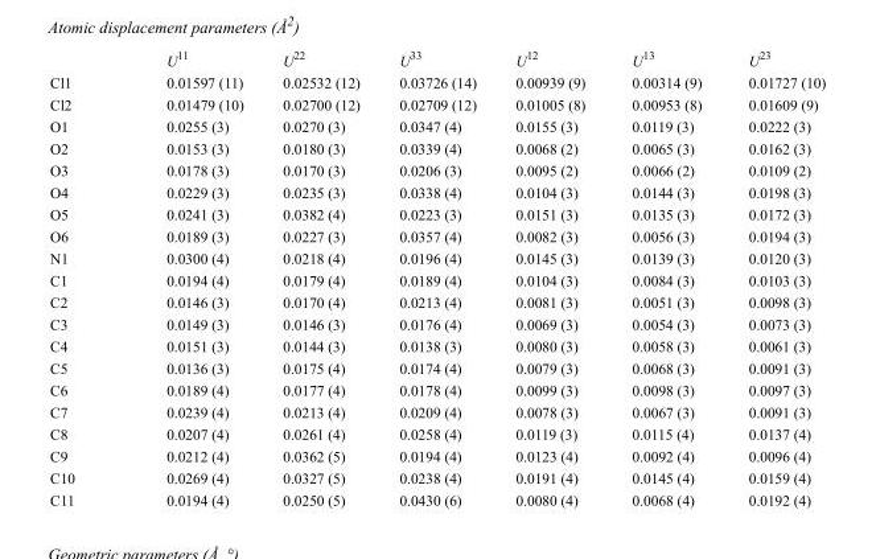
<table><thead><tr><td></td><td>U<sup>11</sup></td><td>U<sup>22</sup></td><td>U<sup>33</sup></td><td>U<sup>12</sup></td><td>U<sup>13</sup></td><td>U<sup>23</sup></td></tr></thead><tbody><tr><td>Cl1</td><td>0.01597 (11)</td><td>0.02532 (12)</td><td>0.03726 (14)</td><td>0.00939 (9)</td><td>0.00314 (9)</td><td>0.01727 (10)</td></tr><tr><td>Cl2</td><td>0.01479 (10)</td><td>0.02700 (12)</td><td>0.02709 (12)</td><td>0.01005 (8)</td><td>0.00953 (8)</td><td>0.01609 (9)</td></tr><tr><td>O1</td><td>0.0255 (3)</td><td>0.0270 (3)</td><td>0.0347 (4)</td><td>0.0155 (3)</td><td>0.0119 (3)</td><td>0.0222 (3)</td></tr><tr><td>O2</td><td>0.0153 (3)</td><td>0.0180 (3)</td><td>0.0339 (4)</td><td>0.0068 (2)</td><td>0.0065 (3)</td><td>0.0162 (3)</td></tr><tr><td>O3</td><td>0.0178 (3)</td><td>0.0170 (3)</td><td>0.0206 (3)</td><td>0.0095 (2)</td><td>0.0066 (2)</td><td>0.0109 (2)</td></tr><tr><td>O4</td><td>0.0229 (3)</td><td>0.0235 (3)</td><td>0.0338 (4)</td><td>0.0104 (3)</td><td>0.0144 (3)</td><td>0.0198 (3)</td></tr><tr><td>O5</td><td>0.0241 (3)</td><td>0.0382 (4)</td><td>0.0223 (3)</td><td>0.0151 (3)</td><td>0.0135 (3)</td><td>0.0172 (3)</td></tr><tr><td>O6</td><td>0.0189 (3)</td><td>0.0227 (3)</td><td>0.0357 (4)</td><td>0.0082 (3)</td><td>0.0056 (3)</td><td>0.0194 (3)</td></tr><tr><td>N1</td><td>0.0300 (4)</td><td>0.0218 (4)</td><td>0.0196 (4)</td><td>0.0145 (3)</td><td>0.0139 (3)</td><td>0.0120 (3)</td></tr><tr><td>C1</td><td>0.0194 (4)</td><td>0.0179 (4)</td><td>0.0189 (4)</td><td>0.0104 (3)</td><td>0.0084 (3)</td><td>0.0103 (3)</td></tr><tr><td>C2</td><td>0.0146 (3)</td><td>0.0170 (4)</td><td>0.0213 (4)</td><td>0.0081 (3)</td><td>0.0051 (3)</td><td>0.0098 (3)</td></tr><tr><td>C3</td><td>0.0149 (3)</td><td>0.0146 (3)</td><td>0.0176 (4)</td><td>0.0069 (3)</td><td>0.0054 (3)</td><td>0.0073 (3)</td></tr><tr><td>C4</td><td>0.0151 (3)</td><td>0.0144 (3)</td><td>0.0138 (3)</td><td>0.0080 (3)</td><td>0.0058 (3)</td><td>0.0061 (3)</td></tr><tr><td>C5</td><td>0.0136 (3)</td><td>0.0175 (4)</td><td>0.0174 (4)</td><td>0.0079 (3)</td><td>0.0068 (3)</td><td>0.0091 (3)</td></tr><tr><td>C6</td><td>0.0189 (4)</td><td>0.0177 (4)</td><td>0.0178 (4)</td><td>0.0099 (3)</td><td>0.0098 (3)</td><td>0.0097 (3)</td></tr><tr><td>C7</td><td>0.0239 (4)</td><td>0.0213 (4)</td><td>0.0209 (4)</td><td>0.0078 (3)</td><td>0.0067 (3)</td><td>0.0091 (3)</td></tr><tr><td>C8</td><td>0.0207 (4)</td><td>0.0261 (4)</td><td>0.0258 (4)</td><td>0.0119 (3)</td><td>0.0115 (4)</td><td>0.0137 (4)</td></tr><tr><td>C9</td><td>0.0212 (4)</td><td>0.0362 (5)</td><td>0.0194 (4)</td><td>0.0123 (4)</td><td>0.0092 (4)</td><td>0.0096 (4)</td></tr><tr><td>C10</td><td>0.0269 (4)</td><td>0.0327 (5)</td><td>0.0238 (4)</td><td>0.0191 (4)</td><td>0.0145 (4)</td><td>0.0159 (4)</td></tr><tr><td>C11</td><td>0.0194 (4)</td><td>0.0250 (5)</td><td>0.0430 (6)</td><td>0.0080 (4)</td><td>0.0068 (4)</td><td>0.0192 (4)</td></tr></tbody></table>